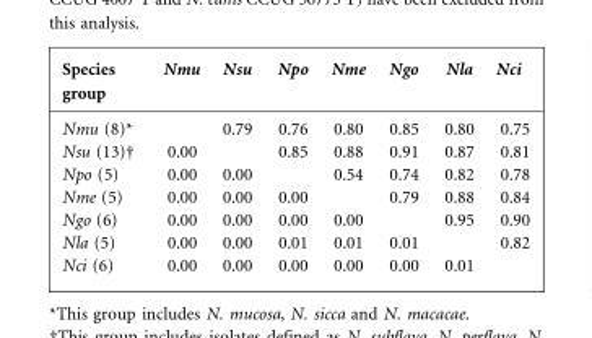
<table><thead><tr><td>Species group</td><td>Nmu</td><td>Nsu</td><td>Npo</td><td>Nme</td><td>Ngo</td><td>Nla</td><td>Nci</td></tr></thead><tbody><tr><td>Nmu (8)*</td><td></td><td>0.79</td><td>0.76</td><td>0.80</td><td>0.85</td><td>0.80</td><td>0.75</td></tr><tr><td>Nsu (13)†</td><td>0.00</td><td></td><td>0.85</td><td>0.88</td><td>0.91</td><td>0.87</td><td>0.81</td></tr><tr><td>Npo (5)</td><td>0.00</td><td>0.00</td><td></td><td>0.54</td><td>0.74</td><td>0.82</td><td>0.78</td></tr><tr><td>Nme (5)</td><td>0.00</td><td>0.00</td><td>0.00</td><td></td><td>0.79</td><td>0.88</td><td>0.84</td></tr><tr><td>Ngo (6)</td><td>0.00</td><td>0.00</td><td>0.00</td><td>0.00</td><td></td><td>0.95</td><td>0.90</td></tr><tr><td>Nla (5)</td><td>0.00</td><td>0.00</td><td>0.01</td><td>0.01</td><td>0.01</td><td></td><td>0.82</td></tr><tr><td>Nci (6)</td><td>0.00</td><td>0.00</td><td>0.00</td><td>0.00</td><td>0.00</td><td>0.01</td><td></td></tr></tbody></table>